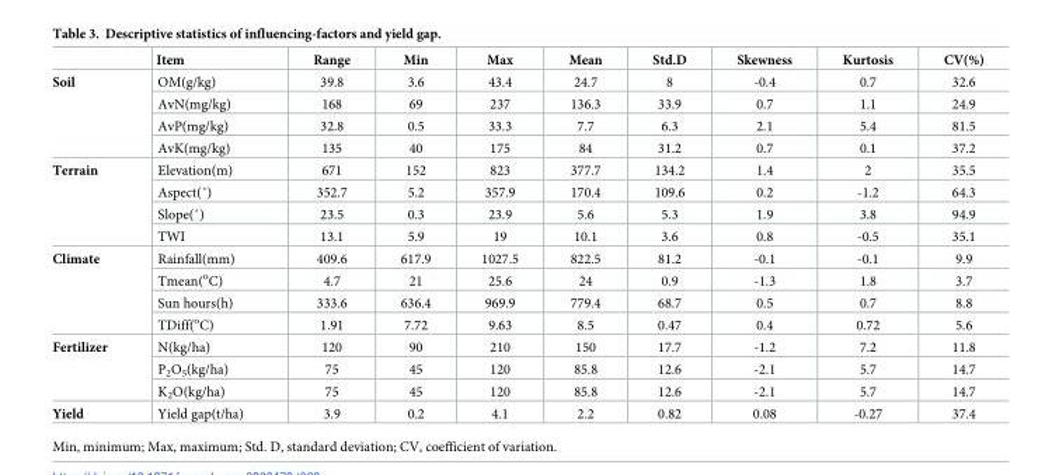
<table><thead><tr><td></td><td>Item</td><td>Range</td><td>Min</td><td>Max</td><td>Mean</td><td>Std.D</td><td>Skewness</td><td>Kurtosis</td><td>CV(%)</td></tr></thead><tbody><tr><td rowspan="4">Soil</td><td>OM(g/kg)</td><td>39.8</td><td>3.6</td><td>43.4</td><td>24.7</td><td>8</td><td>-0.4</td><td>0.7</td><td>32.6</td></tr><tr><td>AvN(mg/kg)</td><td>168</td><td>69</td><td>237</td><td>136.3</td><td>33.9</td><td>0.7</td><td>1.1</td><td>24.9</td></tr><tr><td>AvP(mg/kg)</td><td>32.8</td><td>0.5</td><td>33.3</td><td>7.7</td><td>6.3</td><td>2.1</td><td>5.4</td><td>81.5</td></tr><tr><td>AvK(mg/kg)</td><td>135</td><td>40</td><td>175</td><td>84</td><td>31.2</td><td>0.7</td><td>0.1</td><td>37.2</td></tr><tr><td rowspan="4">Terrain</td><td>Elevation(m)</td><td>671</td><td>152</td><td>823</td><td>377.7</td><td>134.2</td><td>1.4</td><td>2</td><td>35.5</td></tr><tr><td>Aspect(˚)</td><td>352.7</td><td>5.2</td><td>357.9</td><td>170.4</td><td>109.6</td><td>0.2</td><td>-1.2</td><td>64.3</td></tr><tr><td>Slope(˚)</td><td>23.5</td><td>0.3</td><td>23.9</td><td>5.6</td><td>5.3</td><td>1.9</td><td>3.8</td><td>94.9</td></tr><tr><td>TWI</td><td>13.1</td><td>5.9</td><td>19</td><td>10.1</td><td>3.6</td><td>0.8</td><td>-0.5</td><td>35.1</td></tr><tr><td rowspan="4">Climate</td><td>Rainfall(mm)</td><td>409.6</td><td>617.9</td><td>1027.5</td><td>822.5</td><td>81.2</td><td>-0.1</td><td>-0.1</td><td>9.9</td></tr><tr><td>Tmean(<sup>o</sup>C)</td><td>4.7</td><td>21</td><td>25.6</td><td>24</td><td>0.9</td><td>-1.3</td><td>1.8</td><td>3.7</td></tr><tr><td>Sun hours(h)</td><td>333.6</td><td>636.4</td><td>969.9</td><td>779.4</td><td>68.7</td><td>0.5</td><td>0.7</td><td>8.8</td></tr><tr><td>TDiff(<sup>o</sup>C)</td><td>1.91</td><td>7.72</td><td>9.63</td><td>8.5</td><td>0.47</td><td>0.4</td><td>0.72</td><td>5.6</td></tr><tr><td rowspan="3">Fertilizer</td><td>N(kg/ha)</td><td>120</td><td>90</td><td>210</td><td>150</td><td>17.7</td><td>-1.2</td><td>7.2</td><td>11.8</td></tr><tr><td>P<sub>2</sub>O<sub>5</sub>(kg/ha)</td><td>75</td><td>45</td><td>120</td><td>85.8</td><td>12.6</td><td>-2.1</td><td>5.7</td><td>14.7</td></tr><tr><td>K<sub>2</sub>O(kg/ha)</td><td>75</td><td>45</td><td>120</td><td>85.8</td><td>12.6</td><td>-2.1</td><td>5.7</td><td>14.7</td></tr><tr><td>Yield</td><td>Yield gap(t/ha)</td><td>3.9</td><td>0.2</td><td>4.1</td><td>2.2</td><td>0.82</td><td>0.08</td><td>-0.27</td><td>37.4</td></tr></tbody></table>